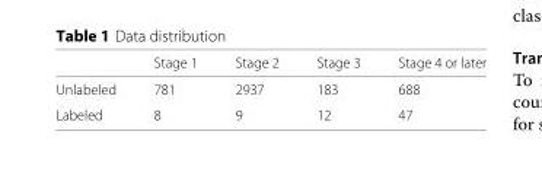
<table><thead><tr><td></td><td>Stage 1</td><td>Stage 2</td><td>Stage 3</td><td>Stage 4 or later</td></tr></thead><tbody><tr><td>Unlabeled</td><td>781</td><td>2937</td><td>183</td><td>688</td></tr><tr><td>Labeled</td><td>8</td><td>9</td><td>12</td><td>47</td></tr></tbody></table>